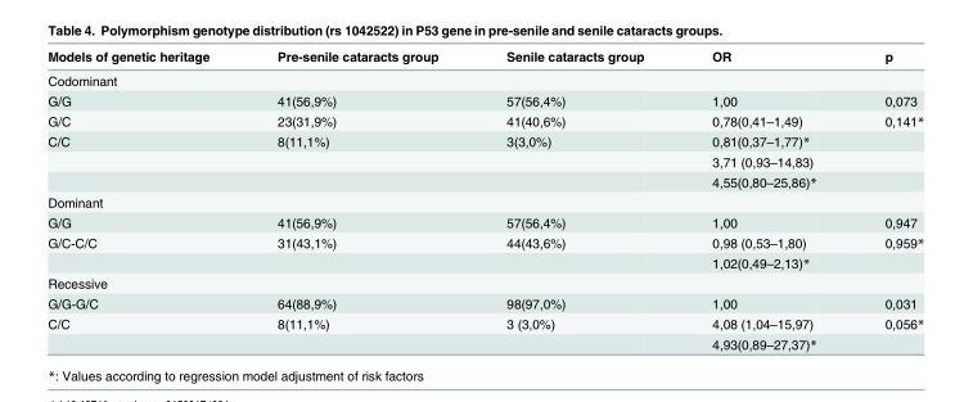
<table><thead><tr><td>Models of genetic heritage</td><td>Pre-senile cataracts group</td><td>Senile cataracts group</td><td>OR</td><td>p</td></tr></thead><tbody><tr><td colspan="5">Codominant</td></tr><tr><td>G/G</td><td>41(56,9%)</td><td>57(56,4%)</td><td>1,00</td><td>0,073</td></tr><tr><td>G/C</td><td>23(31,9%)</td><td>41(40,6%)</td><td>0,78(0,41–1,49)</td><td>0,141*</td></tr><tr><td rowspan="3">C/C</td><td>8(11,1%)</td><td>3(3,0%)</td><td>0,81(0,37–1,77)*</td><td></td></tr><tr><td></td><td></td><td>3,71 (0,93–14,83)</td><td></td></tr><tr><td></td><td></td><td>4,55(0,80–25,86)*</td><td></td></tr><tr><td colspan="5">Dominant</td></tr><tr><td>G/G</td><td>41(56,9%)</td><td>57(56,4%)</td><td>1,00</td><td>0,947</td></tr><tr><td rowspan="2">G/C-C/C</td><td>31(43,1%)</td><td>44(43,6%)</td><td>0,98 (0,53–1,80)</td><td>0,959*</td></tr><tr><td></td><td></td><td>1,02(0,49–2,13)*</td><td></td></tr><tr><td colspan="5">Recessive</td></tr><tr><td>G/G-G/C</td><td>64(88,9%)</td><td>98(97,0%)</td><td>1,00</td><td>0,031</td></tr><tr><td rowspan="2">C/C</td><td>8(11,1%)</td><td>3 (3,0%)</td><td>4,08 (1,04–15,97)</td><td>0,056*</td></tr><tr><td></td><td></td><td>4,93(0,89–27,37)*</td><td></td></tr></tbody></table>